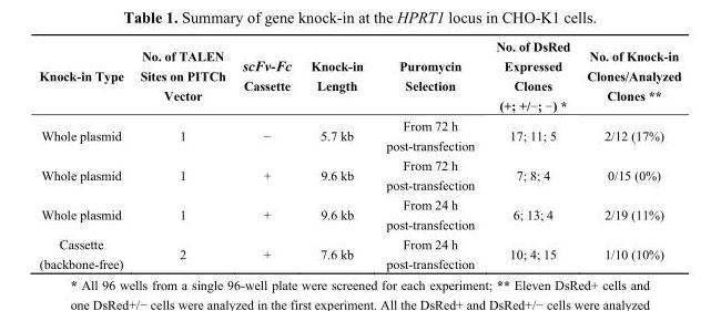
<table><thead><tr><td>Knock-in Type</td><td>No. of TALEN Sites on PITCh Vector</td><td>scFv-Fc Cassette</td><td>Knock-in Length</td><td>Puromycin Selection</td><td>No. of DsRed Expressed Clones (+; +/−; −) *</td><td>No. of Knock-in Clones/Analyzed Clones **</td></tr></thead><tbody><tr><td>Whole plasmid</td><td>1</td><td>−</td><td>5.7 kb</td><td>From 72 h post-transfection</td><td>17; 11; 5</td><td>2/12 (17%)</td></tr><tr><td>Whole plasmid</td><td>1</td><td>+</td><td>9.6 kb</td><td>From 72 h post-transfection</td><td>7; 8; 4</td><td>0/15 (0%)</td></tr><tr><td>Whole plasmid</td><td>1</td><td>+</td><td>9.6 kb</td><td>From 24 h post-transfection</td><td>6; 13; 4</td><td>2/19 (11%)</td></tr><tr><td>Cassette (backbone-free)</td><td>2</td><td>+</td><td>7.6 kb</td><td>From 24 h post-transfection</td><td>10; 4; 15</td><td>1/10 (10%)</td></tr></tbody></table>